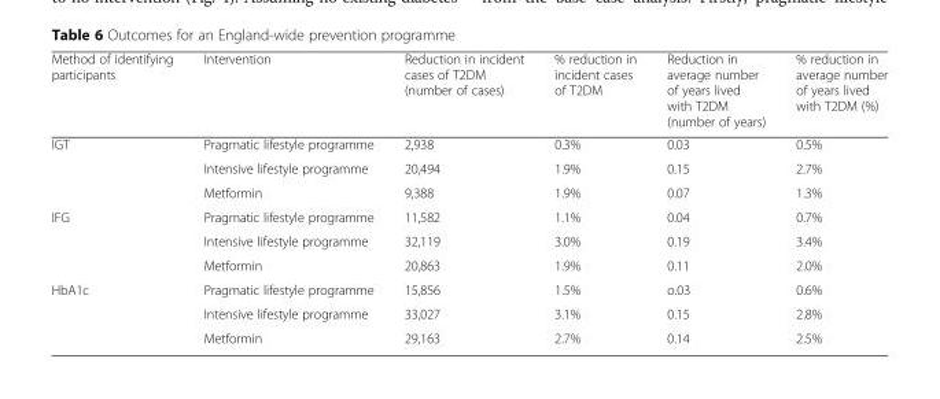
<table><thead><tr><td>Method of identifying participants</td><td>Intervention</td><td>Reduction in incident cases of T2DM (number of cases)</td><td>% reduction in incident cases of T2DM</td><td>Reduction in average number of years lived with T2DM (number of years)</td><td>% reduction in average number of years lived with T2DM (%)</td></tr></thead><tbody><tr><td rowspan="3">IGT</td><td>Pragmatic lifestyle programme</td><td>2,938</td><td>0.3%</td><td>0.03</td><td>0.5%</td></tr><tr><td>Intensive lifestyle programme</td><td>20,494</td><td>1.9%</td><td>0.15</td><td>2.7%</td></tr><tr><td>Metformin</td><td>9,388</td><td>1.9%</td><td>0.07</td><td>1.3%</td></tr><tr><td rowspan="3">IFG</td><td>Pragmatic lifestyle programme</td><td>11,582</td><td>1.1%</td><td>0.04</td><td>0.7%</td></tr><tr><td>Intensive lifestyle programme</td><td>32,119</td><td>3.0%</td><td>0.19</td><td>3.4%</td></tr><tr><td>Metformin</td><td>20,863</td><td>1.9%</td><td>0.11</td><td>2.0%</td></tr><tr><td rowspan="3">HbA1c</td><td>Pragmatic lifestyle programme</td><td>15,856</td><td>1.5%</td><td>o.03</td><td>0.6%</td></tr><tr><td>Intensive lifestyle programme</td><td>33,027</td><td>3.1%</td><td>0.15</td><td>2.8%</td></tr><tr><td>Metformin</td><td>29,163</td><td>2.7%</td><td>0.14</td><td>2.5%</td></tr></tbody></table>